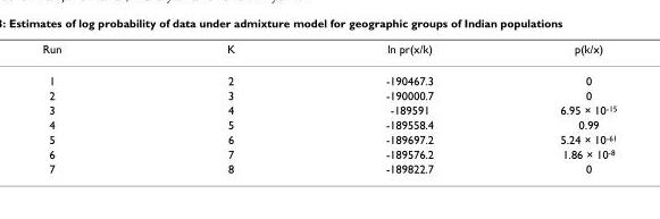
<table><thead><tr><td>Run</td><td>K</td><td>ln pr(x/k)</td><td>p(k/x)</td></tr></thead><tbody><tr><td>1</td><td>2</td><td>-190467.3</td><td>0</td></tr><tr><td>2</td><td>3</td><td>-190000.7</td><td>0</td></tr><tr><td>3</td><td>4</td><td>-189591</td><td>6.95 × 10<sup>-15</sup></td></tr><tr><td>4</td><td>5</td><td>-189558.4</td><td>0.99</td></tr><tr><td>5</td><td>6</td><td>-189697.2</td><td>5.24 × 10<sup>-61</sup></td></tr><tr><td>6</td><td>7</td><td>-189576.2</td><td>1.86 × 10<sup>-8</sup></td></tr><tr><td>7</td><td>8</td><td>-189822.7</td><td>0</td></tr></tbody></table>